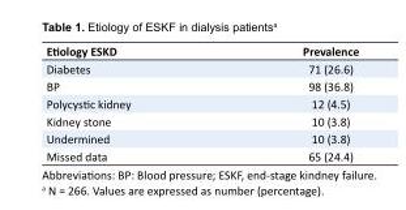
<table><tbody><tr><td>Etiology ESKD</td><td>Prevalence</td></tr><tr><td>Diabetes</td><td>71 (26.6)</td></tr><tr><td>BP</td><td>98 (36.8)</td></tr><tr><td>Polycystic kidney</td><td>12 (4.5)</td></tr><tr><td>Kidney stone</td><td>10 (3.8)</td></tr><tr><td>Undermined</td><td>10 (3.8)</td></tr><tr><td>Missed data</td><td>65 (24.4)</td></tr></tbody></table>